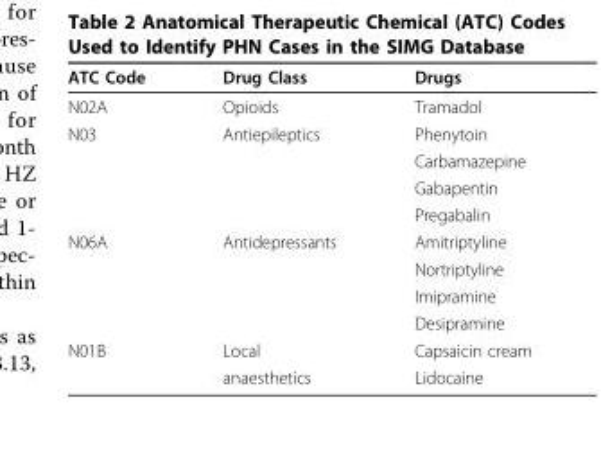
<table><thead><tr><td>ATC Code</td><td>Drug Class</td><td>Drugs</td></tr></thead><tbody><tr><td>N02A</td><td>Opioids</td><td>Tramadol</td></tr><tr><td rowspan="4">N03</td><td>Antiepileptics</td><td>Phenytoin</td></tr><tr><td></td><td>Carbamazepine</td></tr><tr><td></td><td>Gabapentin</td></tr><tr><td></td><td>Pregabalin</td></tr><tr><td rowspan="4">N06A</td><td>Antidepressants</td><td>Amitriptyline</td></tr><tr><td></td><td>Nortriptyline</td></tr><tr><td></td><td>Imipramine</td></tr><tr><td></td><td>Desipramine</td></tr><tr><td rowspan="2">N01B</td><td>Local</td><td>Capsaicin cream</td></tr><tr><td>anaesthetics</td><td>Lidocaine</td></tr></tbody></table>